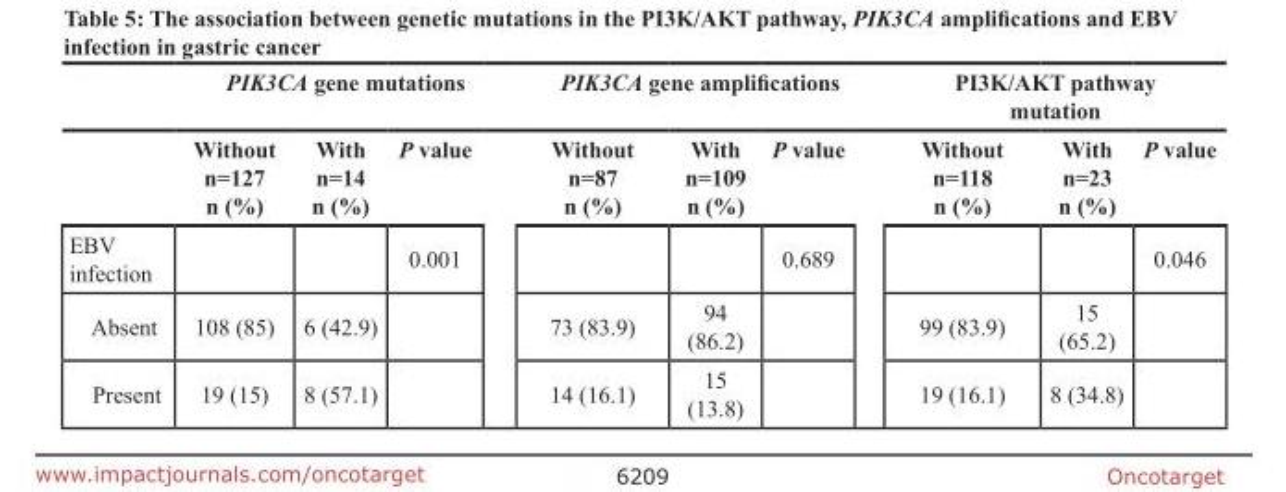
<table><thead><tr><td rowspan="2"></td><td colspan="3">PIK3CA gene mutations</td><td colspan="3">PIK3CA gene amplifications</td><td colspan="3">PI3K/AKT pathway mutation</td></tr><tr><td>Without n=127 n (%)</td><td>With n=14 n (%)</td><td>P value</td><td>Without n=87 n (%)</td><td>With n=109 n (%)</td><td>P value</td><td>Without n=118 n (%)</td><td>With n=23 n (%)</td><td>P value</td></tr></thead><tbody><tr><td>EBV infection</td><td></td><td></td><td>0.001</td><td></td><td></td><td>0.689</td><td></td><td></td><td>0.046</td></tr><tr><td>Absent</td><td>108 (85)</td><td>6 (42.9)</td><td></td><td>73 (83.9)</td><td>94 (86.2)</td><td></td><td>99 (83.9)</td><td>15 (65.2)</td><td></td></tr><tr><td>Present</td><td>19 (15)</td><td>8 (57.1)</td><td></td><td>14 (16.1)</td><td>15 (13.8)</td><td></td><td>19 (16.1)</td><td>8 (34.8)</td><td></td></tr></tbody></table>